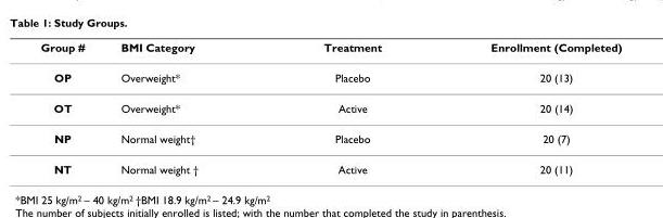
<table><thead><tr><td>Group #</td><td>BMI Category</td><td>Treatment</td><td>Enrollment (Completed)</td></tr></thead><tbody><tr><td>OP</td><td>Overweight*</td><td>Placebo</td><td>20 (13)</td></tr><tr><td>OT</td><td>Overweight*</td><td>Active</td><td>20 (14)</td></tr><tr><td>NP</td><td>Normal weight†</td><td>Placebo</td><td>20 (7)</td></tr><tr><td>NT</td><td>Normal weight †</td><td>Active</td><td>20 (11)</td></tr></tbody></table>